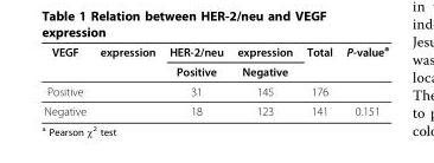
<table><thead><tr><td rowspan="2">VEGF</td><td rowspan="2">expression</td><td rowspan="2">HER-2/neu Positive</td><td rowspan="2">expression Negative</td><td rowspan="2">Total</td><td rowspan="2">P-value<sup>a</sup></td></tr><tr></tr></thead><tbody><tr><td>Positive</td><td></td><td>31</td><td>145</td><td>176</td><td></td></tr><tr><td>Negative</td><td></td><td>18</td><td>123</td><td>141</td><td>0.151</td></tr></tbody></table>